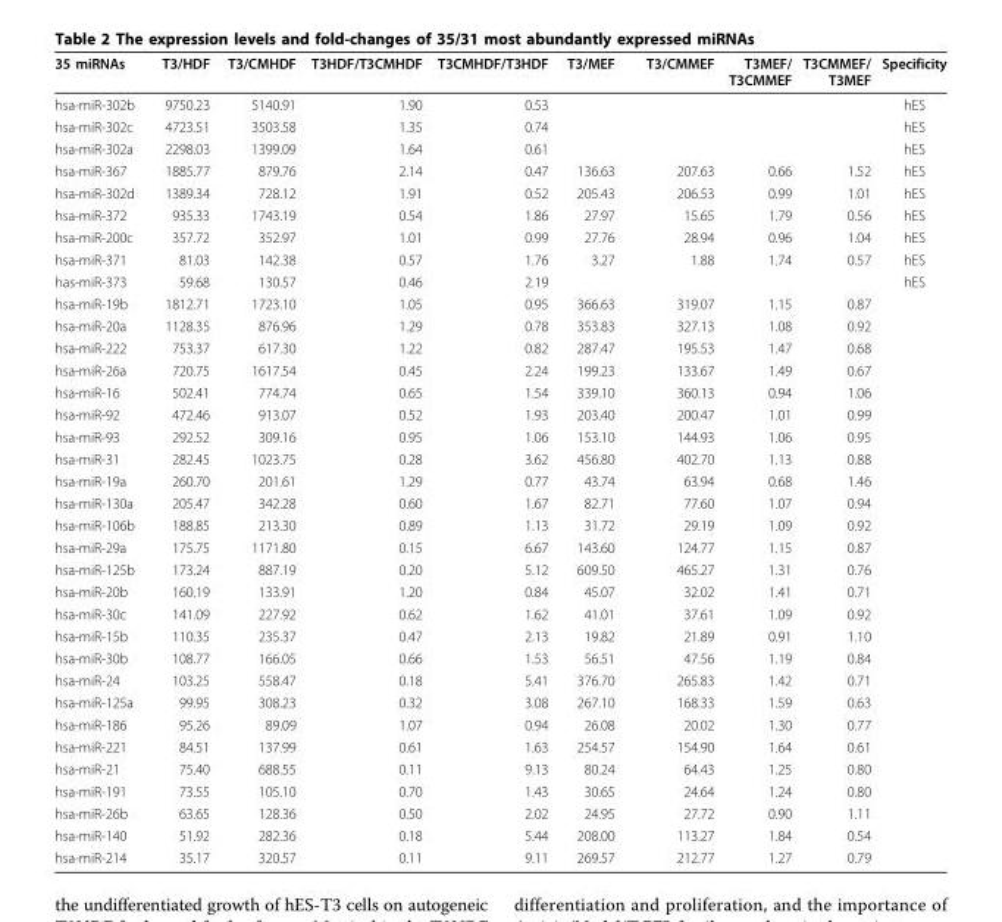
<table><thead><tr><td>35 miRNAs</td><td>T3/HDF</td><td>T3/CMHDF</td><td>T3HDF/T3CMHDF</td><td>T3CMHDF/T3HDF</td><td>T3/MEF</td><td>T3/CMMEF</td><td>T3MEF/ T3CMMEF</td><td>T3CMMEF/ T3MEF</td><td>Specificity</td></tr></thead><tbody><tr><td>hsa-miR-302b</td><td>9750.23</td><td>5140.91</td><td>1.90</td><td>0.53</td><td></td><td></td><td></td><td></td><td>hES</td></tr><tr><td>hsa-miR-302c</td><td>4723.51</td><td>3503.58</td><td>1.35</td><td>0.74</td><td></td><td></td><td></td><td></td><td>hES</td></tr><tr><td>hsa-miR-302a</td><td>2298.03</td><td>1399.09</td><td>1.64</td><td>0.61</td><td></td><td></td><td></td><td></td><td>hES</td></tr><tr><td>hsa-miR-367</td><td>1885.77</td><td>879.76</td><td>2.14</td><td>0.47</td><td>136.63</td><td>207.63</td><td>0.66</td><td>1.52</td><td>hES</td></tr><tr><td>hsa-miR-302d</td><td>1389.34</td><td>728.12</td><td>1.91</td><td>0.52</td><td>205.43</td><td>206.53</td><td>0.99</td><td>1.01</td><td>hES</td></tr><tr><td>hsa-miR-372</td><td>935.33</td><td>1743.19</td><td>0.54</td><td>1.86</td><td>27.97</td><td>15.65</td><td>1.79</td><td>0.56</td><td>hES</td></tr><tr><td>hsa-miR-200c</td><td>357.72</td><td>352.97</td><td>1.01</td><td>0.99</td><td>27.76</td><td>28.94</td><td>0.96</td><td>1.04</td><td>hES</td></tr><tr><td>hsa-miR-371</td><td>81.03</td><td>142.38</td><td>0.57</td><td>1.76</td><td>3.27</td><td>1.88</td><td>1.74</td><td>0.57</td><td>hES</td></tr><tr><td>has-miR-373</td><td>59.68</td><td>130.57</td><td>0.46</td><td>2.19</td><td></td><td></td><td></td><td></td><td>hES</td></tr><tr><td>hsa-miR-19b</td><td>1812.71</td><td>1723.10</td><td>1.05</td><td>0.95</td><td>366.63</td><td>319.07</td><td>1.15</td><td>0.87</td><td></td></tr><tr><td>hsa-miR-20a</td><td>1128.35</td><td>876.96</td><td>1.29</td><td>0.78</td><td>353.83</td><td>327.13</td><td>1.08</td><td>0.92</td><td></td></tr><tr><td>hsa-miR-222</td><td>753.37</td><td>617.30</td><td>1.22</td><td>0.82</td><td>287.47</td><td>195.53</td><td>1.47</td><td>0.68</td><td></td></tr><tr><td>hsa-miR-26a</td><td>720.75</td><td>1617.54</td><td>0.45</td><td>2.24</td><td>199.23</td><td>133.67</td><td>1.49</td><td>0.67</td><td></td></tr><tr><td>hsa-miR-16</td><td>502.41</td><td>774.74</td><td>0.65</td><td>1.54</td><td>339.10</td><td>360.13</td><td>0.94</td><td>1.06</td><td></td></tr><tr><td>hsa-miR-92</td><td>472.46</td><td>913.07</td><td>0.52</td><td>1.93</td><td>203.40</td><td>200.47</td><td>1.01</td><td>0.99</td><td></td></tr><tr><td>hsa-miR-93</td><td>292.52</td><td>309.16</td><td>0.95</td><td>1.06</td><td>153.10</td><td>144.93</td><td>1.06</td><td>0.95</td><td></td></tr><tr><td>hsa-miR-31</td><td>282.45</td><td>1023.75</td><td>0.28</td><td>3.62</td><td>456.80</td><td>402.70</td><td>1.13</td><td>0.88</td><td></td></tr><tr><td>hsa-miR-19a</td><td>260.70</td><td>201.61</td><td>1.29</td><td>0.77</td><td>43.74</td><td>63.94</td><td>0.68</td><td>1.46</td><td></td></tr><tr><td>hsa-miR-130a</td><td>205.47</td><td>342.28</td><td>0.60</td><td>1.67</td><td>82.71</td><td>77.60</td><td>1.07</td><td>0.94</td><td></td></tr><tr><td>hsa-miR-106b</td><td>188.85</td><td>213.30</td><td>0.89</td><td>1.13</td><td>31.72</td><td>29.19</td><td>1.09</td><td>0.92</td><td></td></tr><tr><td>hsa-miR-29a</td><td>175.75</td><td>1171.80</td><td>0.15</td><td>6.67</td><td>143.60</td><td>124.77</td><td>1.15</td><td>0.87</td><td></td></tr><tr><td>hsa-miR-125b</td><td>173.24</td><td>887.19</td><td>0.20</td><td>5.12</td><td>609.50</td><td>465.27</td><td>1.31</td><td>0.76</td><td></td></tr><tr><td>hsa-miR-20b</td><td>160.19</td><td>133.91</td><td>1.20</td><td>0.84</td><td>45.07</td><td>32.02</td><td>1.41</td><td>0.71</td><td></td></tr><tr><td>hsa-miR-30c</td><td>141.09</td><td>227.92</td><td>0.62</td><td>1.62</td><td>41.01</td><td>37.61</td><td>1.09</td><td>0.92</td><td></td></tr><tr><td>hsa-miR-15b</td><td>110.35</td><td>235.37</td><td>0.47</td><td>2.13</td><td>19.82</td><td>21.89</td><td>0.91</td><td>1.10</td><td></td></tr><tr><td>hsa-miR-30b</td><td>108.77</td><td>166.05</td><td>0.66</td><td>1.53</td><td>56.51</td><td>47.56</td><td>1.19</td><td>0.84</td><td></td></tr><tr><td>hsa-miR-24</td><td>103.25</td><td>558.47</td><td>0.18</td><td>5.41</td><td>376.70</td><td>265.83</td><td>1.42</td><td>0.71</td><td></td></tr><tr><td>hsa-miR-125a</td><td>99.95</td><td>308.23</td><td>0.32</td><td>3.08</td><td>267.10</td><td>168.33</td><td>1.59</td><td>0.63</td><td></td></tr><tr><td>hsa-miR-186</td><td>95.26</td><td>89.09</td><td>1.07</td><td>0.94</td><td>26.08</td><td>20.02</td><td>1.30</td><td>0.77</td><td></td></tr><tr><td>hsa-miR-221</td><td>84.51</td><td>137.99</td><td>0.61</td><td>1.63</td><td>254.57</td><td>154.90</td><td>1.64</td><td>0.61</td><td></td></tr><tr><td>hsa-miR-21</td><td>75.40</td><td>688.55</td><td>0.11</td><td>9.13</td><td>80.24</td><td>64.43</td><td>1.25</td><td>0.80</td><td></td></tr><tr><td>hsa-miR-191</td><td>73.55</td><td>105.10</td><td>0.70</td><td>1.43</td><td>30.65</td><td>24.64</td><td>1.24</td><td>0.80</td><td></td></tr><tr><td>hsa-miR-26b</td><td>63.65</td><td>128.36</td><td>0.50</td><td>2.02</td><td>24.95</td><td>27.72</td><td>0.90</td><td>1.11</td><td></td></tr><tr><td>hsa-miR-140</td><td>51.92</td><td>282.36</td><td>0.18</td><td>5.44</td><td>208.00</td><td>113.27</td><td>1.84</td><td>0.54</td><td></td></tr><tr><td>hsa-miR-214</td><td>35.17</td><td>320.57</td><td>0.11</td><td>9.11</td><td>269.57</td><td>212.77</td><td>1.27</td><td>0.79</td><td></td></tr></tbody></table>